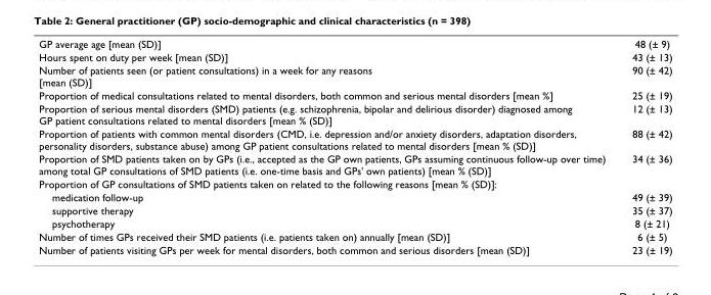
<table><tbody><tr><td>GP average age [mean (SD)]</td><td>48 (± 9)</td></tr><tr><td>Hours spent on duty per week [mean (SD)]</td><td>43 (± 13)</td></tr><tr><td>Number of patients seen (or patient consultations) in a week for any reasons [mean (SD)]</td><td>90 (± 42)</td></tr><tr><td>Proportion of medical consultations related to mental disorders, both common and serious mental disorders [mean %]</td><td>25 (± 19)</td></tr><tr><td>Proportion of serious mental disorders (SMD) patients (e.g. schizophrenia, bipolar and delirious disorder) diagnosed among GP patient consultations related to mental disorders [mean % (SD)]</td><td>12 (± 13)</td></tr><tr><td>Proportion of patients with common mental disorders (CMD, i.e. depression and/or anxiety disorders, adaptation disorders, personality disorders, substance abuse) among GP patient consultations related to mental disorders [mean % (SD)]</td><td>88 (± 42)</td></tr><tr><td>Proportion of SMD patients taken on by GPs (i.e., accepted as the GP own patients, GPs assuming continuous follow-up over time) among total GP consultations of SMD patients (i.e. one-time basis and GPs&#x27; own patients) [mean % (SD)]</td><td>34 (± 36)</td></tr><tr><td colspan="2">Proportion of GP consultations of SMD patients taken on related to the following reasons [mean % (SD)]:</td></tr><tr><td>medication follow-up</td><td>49 (± 39)</td></tr><tr><td>supportive therapy</td><td>35 (± 37)</td></tr><tr><td>psychotherapy</td><td>8 (± 21)</td></tr><tr><td>Number of times GPs received their SMD patients (i.e. patients taken on) annually [mean (SD)]</td><td>6 (± 5)</td></tr><tr><td>Number of patients visiting GPs per week for mental disorders, both common and serious disorders [mean (SD)]</td><td>23 (± 19)</td></tr></tbody></table>